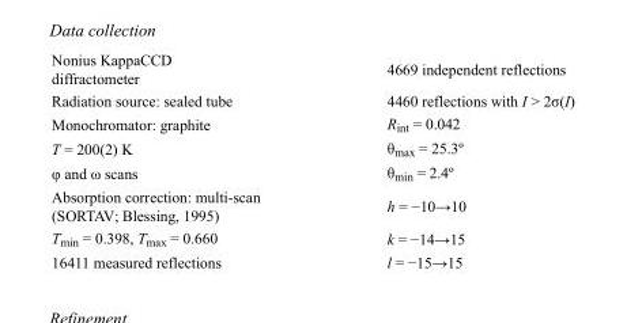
<table><tbody><tr><td>Nonius KappaCCD diffractometer</td><td>4669 independent reflections</td></tr><tr><td>Radiation source: sealed tube</td><td>4460 reflections with I &gt; 2σ(I)</td></tr><tr><td>Monochromator: graphite</td><td>R<sub>int</sub> = 0.042</td></tr><tr><td>T = 200(2) K</td><td>θ<sub>max</sub> = 25.3º</td></tr><tr><td>φ and ω scans</td><td>θ<sub>min</sub> = 2.4º</td></tr><tr><td>Absorption correction: multi-scan (SORTAV; Blessing, 1995)</td><td>h = −10→10</td></tr><tr><td>T<sub>min</sub> = 0.398, T<sub>max</sub> = 0.660</td><td>k = −14→15</td></tr><tr><td>16411 measured reflections</td><td>l = −15→15</td></tr></tbody></table>